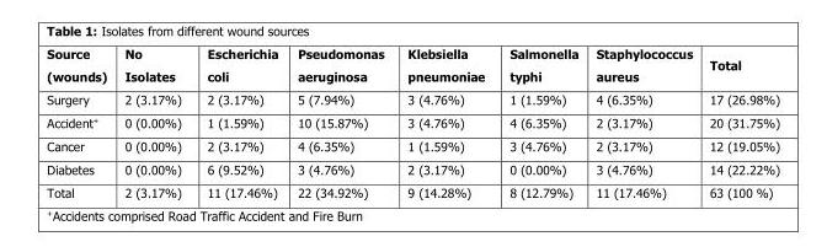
<table><thead><tr><td>Source (wounds)</td><td>No Isolates</td><td>Escherichia coli</td><td>Pseudomonas aeruginosa</td><td>Klebsiella pneumoniae</td><td>Salmonella typhi</td><td>Staphylococcus aureus</td><td>Total</td></tr></thead><tbody><tr><td>Surgery</td><td>2 (3.17%)</td><td>2 (3.17%)</td><td>5 (7.94%)</td><td>3 (4.76%)</td><td>1 (1.59%)</td><td>4 (6.35%)</td><td>17 (26.98%)</td></tr><tr><td>Accident<sup>+</sup></td><td>0 (0.00%)</td><td>1 (1.59%)</td><td>10 (15.87%)</td><td>3 (4.76%)</td><td>4 (6.35%)</td><td>2 (3.17%)</td><td>20 (31.75%)</td></tr><tr><td>Cancer</td><td>0 (0.00%)</td><td>2 (3.17%)</td><td>4 (6.35%)</td><td>1 (1.59%)</td><td>3 (4.76%)</td><td>2 (3.17%)</td><td>12 (19.05%)</td></tr><tr><td>Diabetes</td><td>0 (0.00%)</td><td>6 (9.52%)</td><td>3 (4.76%)</td><td>2 (3.17%)</td><td>0 (0.00%)</td><td>3 (4.76%)</td><td>14 (22.22%)</td></tr><tr><td>Total</td><td>2 (3.17%)</td><td>11 (17.46%)</td><td>22 (34.92%)</td><td>9 (14.28%)</td><td>8 (12.79%)</td><td>11 (17.46%)</td><td>63 (100 %)</td></tr></tbody></table>